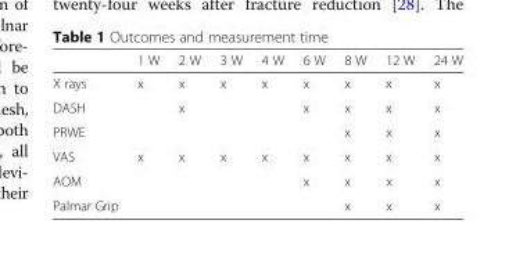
<table><thead><tr><td></td><td>1 W</td><td>2 W</td><td>3 W</td><td>4 W</td><td>6 W</td><td>8 W</td><td>12 W</td><td>24 W</td></tr></thead><tbody><tr><td>X rays</td><td>x</td><td>x</td><td>x</td><td>x</td><td>x</td><td>x</td><td>x</td><td>x</td></tr><tr><td>DASH</td><td></td><td>x</td><td></td><td></td><td>x</td><td>x</td><td>x</td><td>x</td></tr><tr><td>PRWE</td><td></td><td></td><td></td><td></td><td></td><td>x</td><td>x</td><td>x</td></tr><tr><td>VAS</td><td>x</td><td>x</td><td>x</td><td>x</td><td>x</td><td>x</td><td>x</td><td>x</td></tr><tr><td>AOM</td><td></td><td></td><td></td><td></td><td>x</td><td>x</td><td>x</td><td>x</td></tr><tr><td>Palmar Grip</td><td></td><td></td><td></td><td></td><td></td><td>x</td><td>x</td><td>x</td></tr></tbody></table>